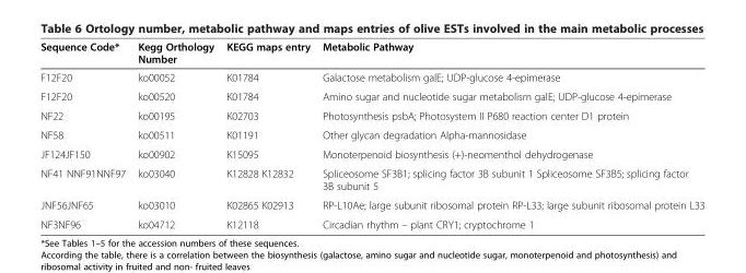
<table><thead><tr><td>Sequence Code*</td><td>Kegg Orthology Number</td><td>KEGG maps entry</td><td>Metabolic Pathway</td></tr></thead><tbody><tr><td>F12F20</td><td>ko00052</td><td>K01784</td><td>Galactose metabolism galE; UDP-glucose 4-epimerase</td></tr><tr><td>F12F20</td><td>ko00520</td><td>K01784</td><td>Amino sugar and nucleotide sugar metabolism galE; UDP-glucose 4-epimerase</td></tr><tr><td>NF22</td><td>ko00195</td><td>K02703</td><td>Photosynthesis psbA; Photosystem II P680 reaction center D1 protein</td></tr><tr><td>NF58</td><td>ko00511</td><td>K01191</td><td>Other glycan degradation Alpha-mannosidase</td></tr><tr><td>JF124JF150</td><td>ko00902</td><td>K15095</td><td>Monoterpenoid biosynthesis (+)-neomenthol dehydrogenase</td></tr><tr><td>NF41 NNF91NNF97</td><td>ko03040</td><td>K12828 K12832</td><td>Spliceosome SF3B1; splicing factor 3B subunit 1 Spliceosome SF3B5; splicing factor 3B subunit 5</td></tr><tr><td>JNF56JNF65</td><td>ko03010</td><td>K02865 K02913</td><td>RP-L10Ae; large subunit ribosomal protein RP-L33; large subunit ribosomal protein L33</td></tr><tr><td>NF3NF96</td><td>ko04712</td><td>K12118</td><td>Circadian rhythm – plant CRY1; cryptochrome 1</td></tr></tbody></table>